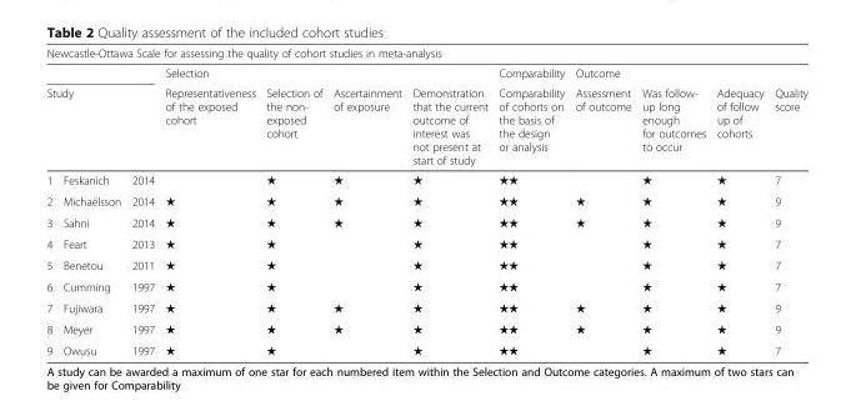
<table><thead><tr><td colspan="12">Newcastle-Ottawa Scale for assessing the quality of cohort studies in meta-analysis</td></tr><tr><td></td><td></td><td></td><td rowspan="2">Selection Representativeness of the exposed cohort</td><td rowspan="2">Selection of the non- exposed cohort</td><td rowspan="2">Ascertainment of exposure</td><td rowspan="2">Demonstration that the current outcome of interest was not present at start of study</td><td rowspan="2">Comparability Comparability of cohorts on the basis of the design or analysis</td><td rowspan="2">Outcome Assessment of outcome</td><td rowspan="2">Was follow- up long enough for outcomes to occur</td><td rowspan="2">Adequacy of follow up of cohorts</td><td rowspan="2">Quality score</td></tr><tr><td colspan="3">Study</td></tr></thead><tbody><tr><td>1</td><td>Feskanich</td><td>2014</td><td></td><td>★</td><td>★</td><td>★</td><td>★★</td><td></td><td>★</td><td>★</td><td>7</td></tr><tr><td>2</td><td>Michaëlsson</td><td>2014</td><td>★</td><td>★</td><td>★</td><td>★</td><td>★★</td><td>★</td><td>★</td><td>★</td><td>9</td></tr><tr><td>3</td><td>Sahni</td><td>2014</td><td>★</td><td>★</td><td>★</td><td>★</td><td>★★</td><td>★</td><td>★</td><td>★</td><td>9</td></tr><tr><td>4</td><td>Feart</td><td>2013</td><td>★</td><td>★</td><td></td><td>★</td><td>★★</td><td></td><td>★</td><td>★</td><td>7</td></tr><tr><td>5</td><td>Benetou</td><td>2011</td><td>★</td><td>★</td><td></td><td>★</td><td>★★</td><td></td><td>★</td><td>★</td><td>7</td></tr><tr><td>6</td><td>Cumming</td><td>1997</td><td>★</td><td>★</td><td></td><td>★</td><td>★★</td><td></td><td>★</td><td>★</td><td>7</td></tr><tr><td>7</td><td>Fujiwara</td><td>1997</td><td>★</td><td>★</td><td>★</td><td>★</td><td>★★</td><td>★</td><td>★</td><td>★</td><td>9</td></tr><tr><td>8</td><td>Meyer</td><td>1997</td><td>★</td><td>★</td><td>★</td><td>★</td><td>★★</td><td>★</td><td>★</td><td>★</td><td>9</td></tr><tr><td>9</td><td>Owusu</td><td>1997</td><td>★</td><td>★</td><td></td><td>★</td><td>★★</td><td></td><td>★</td><td>★</td><td>7</td></tr></tbody></table>